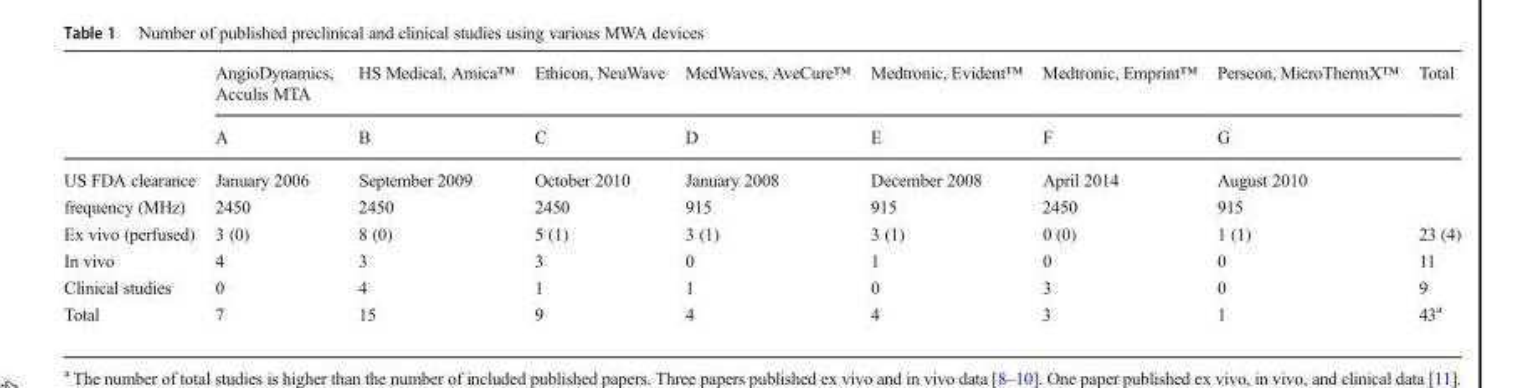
<table><thead><tr><td rowspan="2"></td><td rowspan="2">AngioDynamics, Acculis MTA A</td><td rowspan="2">HS Medical, Amica™ B</td><td rowspan="2">Ethicon, NeuWave C</td><td rowspan="2">MedWaves, AveCure™ D</td><td rowspan="2">Medtronic, Evident™ E</td><td rowspan="2">Medtronic, Emprint™ F</td><td rowspan="2">Perseon, MicroThermX™ G</td><td rowspan="2">Total</td></tr><tr></tr></thead><tbody><tr><td>US FDA clearance</td><td>January 2006</td><td>September 2009</td><td>October 2010</td><td>January 2008</td><td>December 2008</td><td>April 2014</td><td>August 2010</td><td></td></tr><tr><td>frequency (MHz)</td><td>2450</td><td>2450</td><td>2450</td><td>915</td><td>915</td><td>2450</td><td>915</td><td></td></tr><tr><td>Ex vivo (perfused)</td><td>3 (0)</td><td>8 (0)</td><td>5 (1)</td><td>3 (1)</td><td>3 (1)</td><td>0 (0)</td><td>1 (1)</td><td>23 (4)</td></tr><tr><td>In vivo</td><td>4</td><td>3</td><td>3</td><td>0</td><td>1</td><td>0</td><td>0</td><td>11</td></tr><tr><td>Clinical studies</td><td>0</td><td>4</td><td>1</td><td>1</td><td>0</td><td>3</td><td>0</td><td>9</td></tr><tr><td>Total</td><td>7</td><td>15</td><td>9</td><td>4</td><td>4</td><td>3</td><td>1</td><td>43<sup>a</sup></td></tr></tbody></table>